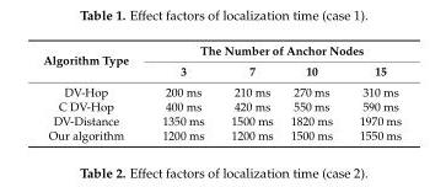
<table><thead><tr><td rowspan="2">Algorithm Type</td><td colspan="4">The Number of Anchor Nodes</td></tr><tr><td>3</td><td>7</td><td>10</td><td>15</td></tr></thead><tbody><tr><td>DV-Hop</td><td>200 ms</td><td>210 ms</td><td>270 ms</td><td>310 ms</td></tr><tr><td>C DV-Hop</td><td>400 ms</td><td>420 ms</td><td>550 ms</td><td>590 ms</td></tr><tr><td>DV-Distance</td><td>1350 ms</td><td>1500 ms</td><td>1820 ms</td><td>1970 ms</td></tr><tr><td>Our algorithm</td><td>1200 ms</td><td>1200 ms</td><td>1500 ms</td><td>1550 ms</td></tr></tbody></table>